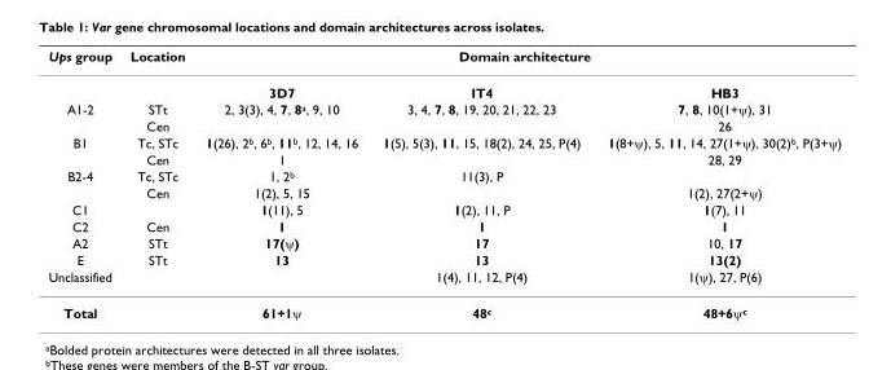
<table><thead><tr><td rowspan="2">Ups group</td><td rowspan="2">Location</td><td colspan="3">Domain architecture</td></tr><tr><td>3D7</td><td>IT4</td><td>HB3</td></tr></thead><tbody><tr><td rowspan="2">A1-2</td><td>STt</td><td>2, 3(3), 4, 7, 8<sup>a</sup>, 9, 10</td><td>3, 4, 7, 8, 19, 20, 21, 22, 23</td><td>7, 8, 10(1+ψ), 31</td></tr><tr><td>Cen</td><td></td><td></td><td>26</td></tr><tr><td rowspan="2">B1</td><td>Tc, STc</td><td>1(26), 2<sup>b</sup>, 6<sup>b</sup>, 11<sup>b</sup>, 12, 14, 16</td><td>1(5), 5(3), 11, 15, 18(2), 24, 25, P(4)</td><td>1(8+ψ), 5, 11, 14, 27(1+ψ), 30(2)<sup>b</sup>, P(3+ψ)</td></tr><tr><td>Cen</td><td>1</td><td></td><td>28, 29</td></tr><tr><td rowspan="2">B2-4</td><td>Tc, STc</td><td>1, 2<sup>b</sup></td><td>11(3), P</td><td></td></tr><tr><td>Cen</td><td>1(2), 5, 15</td><td></td><td>1(2), 27(2+ψ)</td></tr><tr><td>C1</td><td></td><td>1(11), 5</td><td>1(2), 11, P</td><td>1(7), 11</td></tr><tr><td>C2</td><td>Cen</td><td>1</td><td>1</td><td>1</td></tr><tr><td>A2</td><td>STt</td><td>17(ψ)</td><td>17</td><td>10, 17</td></tr><tr><td>E</td><td>STt</td><td>13</td><td>13</td><td>13(2)</td></tr><tr><td>Unclassified</td><td></td><td></td><td>1(4), 11, 12, P(4)</td><td>1(ψ), 27, P(6)</td></tr><tr><td>Total</td><td></td><td>61+1ψ</td><td>48<sup>c</sup></td><td>48+6ψ<sup>c</sup></td></tr></tbody></table>